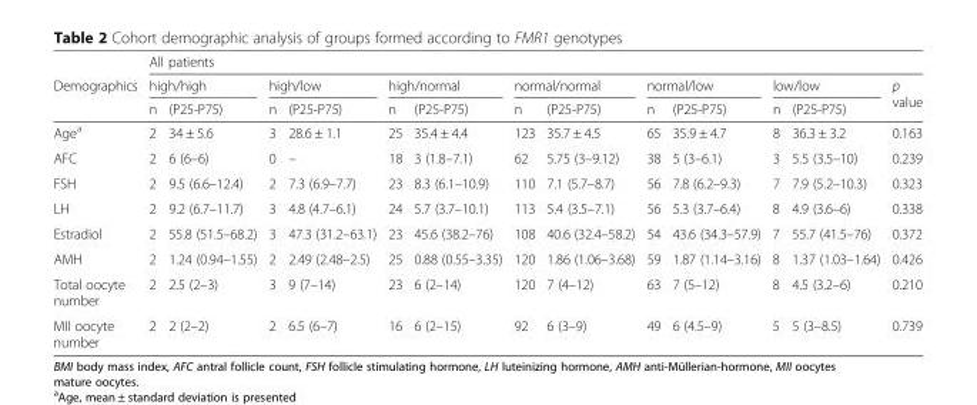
<table><thead><tr><td rowspan="3">Demographics</td><td colspan="13">All patients</td></tr><tr><td colspan="2">high/high</td><td colspan="2">high/low</td><td colspan="2">high/normal</td><td colspan="2">normal/normal</td><td colspan="2">normal/low</td><td colspan="2">low/low</td><td rowspan="2">p value</td></tr><tr><td>n</td><td>(P25-P75)</td><td>n</td><td>(P25-P75)</td><td>n</td><td>(P25-P75)</td><td>n</td><td>(P25-P75)</td><td>n</td><td>(P25-P75)</td><td>n</td><td>(P25-P75)</td></tr></thead><tbody><tr><td>Age<sup>a</sup></td><td>2</td><td>34 ± 5.6</td><td>3</td><td>28.6 ± 1.1</td><td>25</td><td>35.4 ± 4.4</td><td>123</td><td>35.7 ± 4.5</td><td>65</td><td>35.9 ± 4.7</td><td>8</td><td>36.3 ± 3.2</td><td>0.163</td></tr><tr><td>AFC</td><td>2</td><td>6 (6–6)</td><td>0</td><td>–</td><td>18</td><td>3 (1.8–7.1)</td><td>62</td><td>5.75 (3–9.12)</td><td>38</td><td>5 (3–6.1)</td><td>3</td><td>5.5 (3.5–10)</td><td>0.239</td></tr><tr><td>FSH</td><td>2</td><td>9.5 (6.6–12.4)</td><td>2</td><td>7.3 (6.9–7.7)</td><td>23</td><td>8.3 (6.1–10.9)</td><td>110</td><td>7.1 (5.7–8.7)</td><td>56</td><td>7.8 (6.2–9.3)</td><td>7</td><td>7.9 (5.2–10.3)</td><td>0.323</td></tr><tr><td>LH</td><td>2</td><td>9.2 (6.7–11.7)</td><td>3</td><td>4.8 (4.7–6.1)</td><td>24</td><td>5.7 (3.7–10.1)</td><td>113</td><td>5.4 (3.5–7.1)</td><td>56</td><td>5.3 (3.7–6.4)</td><td>8</td><td>4.9 (3.6–6)</td><td>0.338</td></tr><tr><td>Estradiol</td><td>2</td><td>55.8 (51.5–68.2)</td><td>3</td><td>47.3 (31.2–63.1)</td><td>23</td><td>45.6 (38.2–76)</td><td>108</td><td>40.6 (32.4–58.2)</td><td>54</td><td>43.6 (34.3–57.9)</td><td>7</td><td>55.7 (41.5–76)</td><td>0.372</td></tr><tr><td>AMH</td><td>2</td><td>1.24 (0.94–1.55)</td><td>2</td><td>2.49 (2.48–2.5)</td><td>25</td><td>0.88 (0.55–3.35)</td><td>120</td><td>1.86 (1.06–3.68)</td><td>59</td><td>1.87 (1.14–3.16)</td><td>8</td><td>1.37 (1.03–1.64)</td><td>0.426</td></tr><tr><td>Total oocyte number</td><td>2</td><td>2.5 (2–3)</td><td>3</td><td>9 (7–14)</td><td>23</td><td>6 (2–14)</td><td>120</td><td>7 (4–12)</td><td>63</td><td>7 (5–12)</td><td>8</td><td>4.5 (3.2–6)</td><td>0.210</td></tr><tr><td>MII oocyte number</td><td>2</td><td>2 (2–2)</td><td>2</td><td>6.5 (6–7)</td><td>16</td><td>6 (2–15)</td><td>92</td><td>6 (3–9)</td><td>49</td><td>6 (4.5–9)</td><td>5</td><td>5 (3–8.5)</td><td>0.739</td></tr></tbody></table>